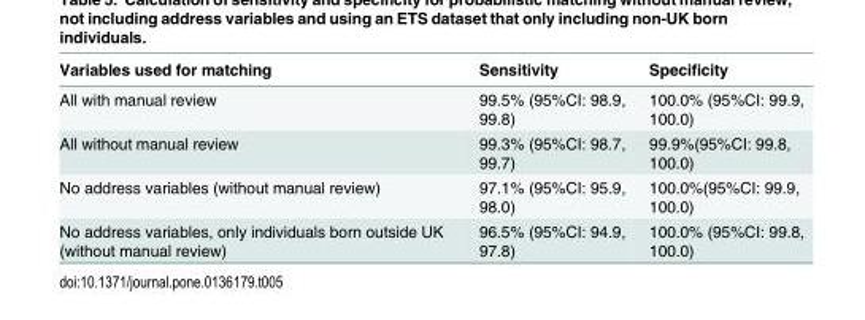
<table><thead><tr><td>Variables used for matching</td><td>Sensitivity</td><td>Specificity</td></tr></thead><tbody><tr><td>All with manual review</td><td>99.5% (95%CI: 98.9, 99.8)</td><td>100.0% (95%CI: 99.9, 100.0)</td></tr><tr><td>All without manual review</td><td>99.3% (95%CI: 98.7, 99.7)</td><td>99.9%(95%CI: 99.8, 100.0)</td></tr><tr><td>No address variables (without manual review)</td><td>97.1% (95%CI: 95.9, 98.0)</td><td>100.0%(95%CI: 99.9, 100.0)</td></tr><tr><td>No address variables, only individuals born outside UK (without manual review)</td><td>96.5% (95%CI: 94.9, 97.8)</td><td>100.0% (95%CI: 99.8, 100.0)</td></tr></tbody></table>